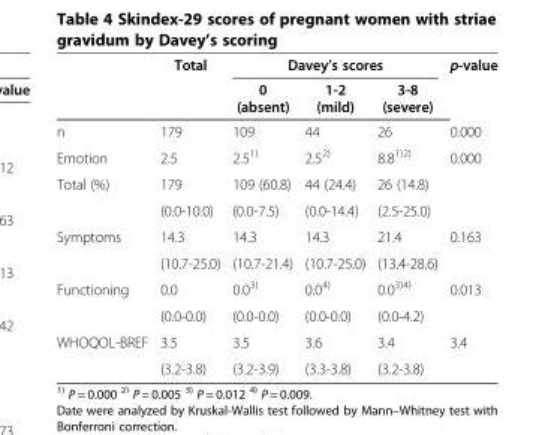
<table><thead><tr><td rowspan="2"></td><td rowspan="2">Total</td><td colspan="3">Davey’s scores</td><td rowspan="2">p-value</td></tr><tr><td>0 (absent)</td><td>1-2 (mild)</td><td>3-8 (severe)</td></tr></thead><tbody><tr><td>n</td><td>179</td><td>109</td><td>44</td><td>26</td><td>0.000</td></tr><tr><td>Emotion</td><td>2.5</td><td>2.5<sup>1)</sup></td><td>2.5<sup>2)</sup></td><td>8.8<sup>1)2)</sup></td><td>0.000</td></tr><tr><td rowspan="2">Total (%)</td><td>179</td><td>109 (60.8)</td><td>44 (24.4)</td><td>26 (14.8)</td><td></td></tr><tr><td>(0.0-10.0)</td><td>(0.0-7.5)</td><td>(0.0-14.4)</td><td>(2.5-25.0)</td><td></td></tr><tr><td rowspan="2">Symptoms</td><td>14.3</td><td>14.3</td><td>14.3</td><td>21.4</td><td>0.163</td></tr><tr><td>(10.7-25.0)</td><td>(10.7-21.4)</td><td>(10.7-25.0)</td><td>(13.4-28.6)</td><td></td></tr><tr><td rowspan="2">Functioning</td><td>0.0</td><td>0.0<sup>3)</sup></td><td>0.0<sup>4)</sup></td><td>0.0<sup>3)4)</sup></td><td>0.013</td></tr><tr><td>(0.0-0.0)</td><td>(0.0-0.0)</td><td>(0.0-0.0)</td><td>(0.0-4.2)</td><td></td></tr><tr><td rowspan="2">WHOQOL-BREF</td><td>3.5</td><td>3.5</td><td>3.6</td><td>3.4</td><td>3.4</td></tr><tr><td>(3.2-3.8)</td><td>(3.2-3.9)</td><td>(3.3-3.8)</td><td>(3.2-3.8)</td><td></td></tr></tbody></table>